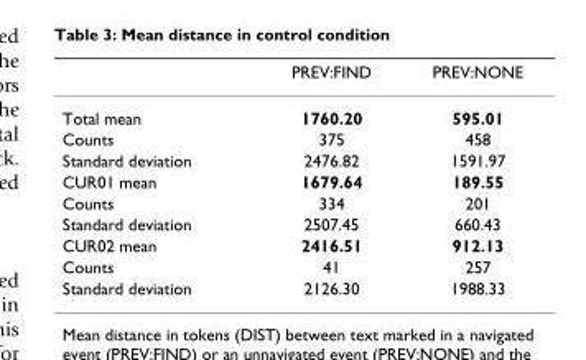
<table><thead><tr><td></td><td>PREV:FIND</td><td>PREV:NONE</td></tr></thead><tbody><tr><td>Total mean</td><td>1760.20</td><td>595.01</td></tr><tr><td>Counts</td><td>375</td><td>458</td></tr><tr><td>Standard deviation</td><td>2476.82</td><td>1591.97</td></tr><tr><td>CUR01 mean</td><td>1679.64</td><td>189.55</td></tr><tr><td>Counts</td><td>334</td><td>201</td></tr><tr><td>Standard deviation</td><td>2507.45</td><td>660.43</td></tr><tr><td>CUR02 mean</td><td>2416.51</td><td>912.13</td></tr><tr><td>Counts</td><td>41</td><td>257</td></tr><tr><td>Standard deviation</td><td>2126.30</td><td>1988.33</td></tr></tbody></table>